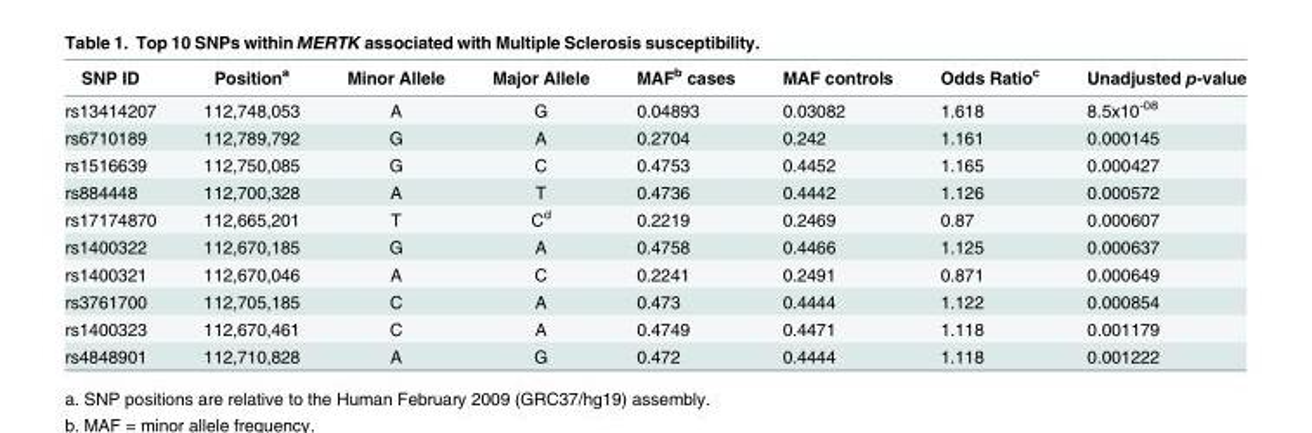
<table><thead><tr><td>SNP ID</td><td>Position<sup>a</sup></td><td>Minor Allele</td><td>Major Allele</td><td>MAF<sup>b</sup> cases</td><td>MAF controls</td><td>Odds Ratio<sup>c</sup></td><td>Unadjusted p-value</td></tr></thead><tbody><tr><td>rs13414207</td><td>112,748,053</td><td>A</td><td>G</td><td>0.04893</td><td>0.03082</td><td>1.618</td><td>8.5x10<sup>-08</sup></td></tr><tr><td>rs6710189</td><td>112,789,792</td><td>G</td><td>A</td><td>0.2704</td><td>0.242</td><td>1.161</td><td>0.000145</td></tr><tr><td>rs1516639</td><td>112,750,085</td><td>G</td><td>C</td><td>0.4753</td><td>0.4452</td><td>1.165</td><td>0.000427</td></tr><tr><td>rs884448</td><td>112,700,328</td><td>A</td><td>T</td><td>0.4736</td><td>0.4442</td><td>1.126</td><td>0.000572</td></tr><tr><td>rs17174870</td><td>112,665,201</td><td>T</td><td>C<sup>d</sup></td><td>0.2219</td><td>0.2469</td><td>0.87</td><td>0.000607</td></tr><tr><td>rs1400322</td><td>112,670,185</td><td>G</td><td>A</td><td>0.4758</td><td>0.4466</td><td>1.125</td><td>0.000637</td></tr><tr><td>rs1400321</td><td>112,670,046</td><td>A</td><td>C</td><td>0.2241</td><td>0.2491</td><td>0.871</td><td>0.000649</td></tr><tr><td>rs3761700</td><td>112,705,185</td><td>C</td><td>A</td><td>0.473</td><td>0.4444</td><td>1.122</td><td>0.000854</td></tr><tr><td>rs1400323</td><td>112,670,461</td><td>C</td><td>A</td><td>0.4749</td><td>0.4471</td><td>1.118</td><td>0.001179</td></tr><tr><td>rs4848901</td><td>112,710,828</td><td>A</td><td>G</td><td>0.472</td><td>0.4444</td><td>1.118</td><td>0.001222</td></tr></tbody></table>